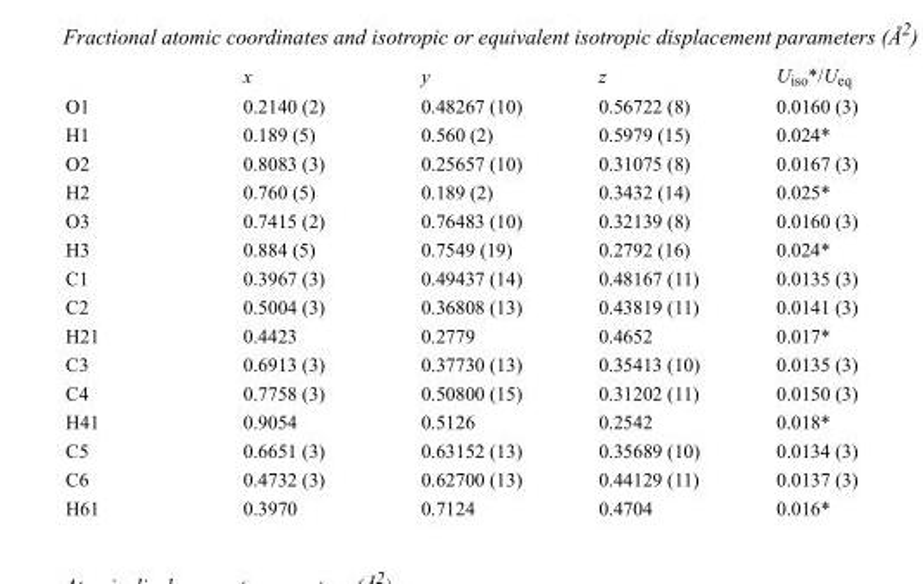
<table><thead><tr><td></td><td>x</td><td>y</td><td>z</td><td>U<sub>iso</sub>*/U<sub>eq</sub></td></tr></thead><tbody><tr><td>O1</td><td>0.2140 (2)</td><td>0.48267 (10)</td><td>0.56722 (8)</td><td>0.0160 (3)</td></tr><tr><td>H1</td><td>0.189 (5)</td><td>0.560 (2)</td><td>0.5979 (15)</td><td>0.024*</td></tr><tr><td>O2</td><td>0.8083 (3)</td><td>0.25657 (10)</td><td>0.31075 (8)</td><td>0.0167 (3)</td></tr><tr><td>H2</td><td>0.760 (5)</td><td>0.189 (2)</td><td>0.3432 (14)</td><td>0.025*</td></tr><tr><td>O3</td><td>0.7415 (2)</td><td>0.76483 (10)</td><td>0.32139 (8)</td><td>0.0160 (3)</td></tr><tr><td>H3</td><td>0.884 (5)</td><td>0.7549 (19)</td><td>0.2792 (16)</td><td>0.024*</td></tr><tr><td>C1</td><td>0.3967 (3)</td><td>0.49437 (14)</td><td>0.48167 (11)</td><td>0.0135 (3)</td></tr><tr><td>C2</td><td>0.5004 (3)</td><td>0.36808 (13)</td><td>0.43819 (11)</td><td>0.0141 (3)</td></tr><tr><td>H21</td><td>0.4423</td><td>0.2779</td><td>0.4652</td><td>0.017*</td></tr><tr><td>C3</td><td>0.6913 (3)</td><td>0.37730 (13)</td><td>0.35413 (10)</td><td>0.0135 (3)</td></tr><tr><td>C4</td><td>0.7758 (3)</td><td>0.50800 (15)</td><td>0.31202 (11)</td><td>0.0150 (3)</td></tr><tr><td>H41</td><td>0.9054</td><td>0.5126</td><td>0.2542</td><td>0.018*</td></tr><tr><td>C5</td><td>0.6651 (3)</td><td>0.63152 (13)</td><td>0.35689 (10)</td><td>0.0134 (3)</td></tr><tr><td>C6</td><td>0.4732 (3)</td><td>0.62700 (13)</td><td>0.44129 (11)</td><td>0.0137 (3)</td></tr><tr><td>H61</td><td>0.3970</td><td>0.7124</td><td>0.4704</td><td>0.016*</td></tr></tbody></table>